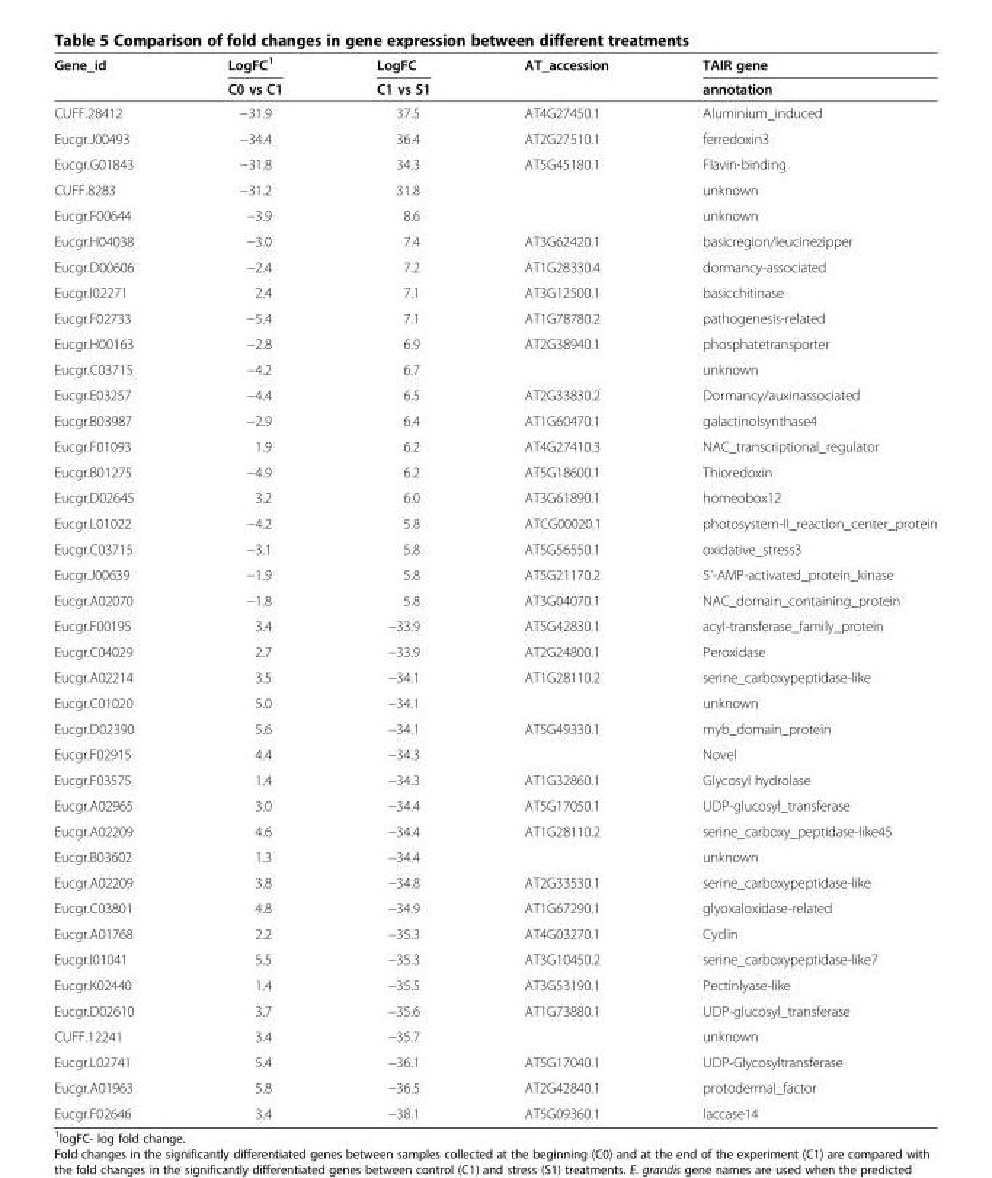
<table><thead><tr><td rowspan="2">Gene_id</td><td rowspan="2">LogFC<sup>1</sup> C0 vs C1</td><td rowspan="2">LogFC C1 vs S1</td><td rowspan="2">AT_accession</td><td rowspan="2">TAIR gene annotation</td></tr><tr></tr></thead><tbody><tr><td>CUFF.28412</td><td>−31.9</td><td>37.5</td><td>AT4G27450.1</td><td>Aluminium_induced</td></tr><tr><td>Eucgr.J00493</td><td>−34.4</td><td>36.4</td><td>AT2G27510.1</td><td>ferredoxin3</td></tr><tr><td>Eucgr.G01843</td><td>−31.8</td><td>34.3</td><td>AT5G45180.1</td><td>Flavin-binding</td></tr><tr><td>CUFF.8283</td><td>−31.2</td><td>31.8</td><td></td><td>unknown</td></tr><tr><td>Eucgr.F00644</td><td>−3.9</td><td>8.6</td><td></td><td>unknown</td></tr><tr><td>Eucgr.H04038</td><td>−3.0</td><td>7.4</td><td>AT3G62420.1</td><td>basicregion/leucinezipper</td></tr><tr><td>Eucgr.D00606</td><td>−2.4</td><td>7.2</td><td>AT1G28330.4</td><td>dormancy-associated</td></tr><tr><td>Eucgr.I02271</td><td>2.4</td><td>7.1</td><td>AT3G12500.1</td><td>basicchitinase</td></tr><tr><td>Eucgr.F02733</td><td>−5.4</td><td>7.1</td><td>AT1G78780.2</td><td>pathogenesis-related</td></tr><tr><td>Eucgr.H00163</td><td>−2.8</td><td>6.9</td><td>AT2G38940.1</td><td>phosphatetransporter</td></tr><tr><td>Eucgr.C03715</td><td>−4.2</td><td>6.7</td><td></td><td>unknown</td></tr><tr><td>Eucgr.E03257</td><td>−4.4</td><td>6.5</td><td>AT2G33830.2</td><td>Dormancy/auxinassociated</td></tr><tr><td>Eucgr.B03987</td><td>−2.9</td><td>6.4</td><td>AT1G60470.1</td><td>galactinolsynthase4</td></tr><tr><td>Eucgr.F01093</td><td>1.9</td><td>6.2</td><td>AT4G27410.3</td><td>NAC_transcriptional_regulator</td></tr><tr><td>Eucgr.B01275</td><td>−4.9</td><td>6.2</td><td>AT5G18600.1</td><td>Thioredoxin</td></tr><tr><td>Eucgr.D02645</td><td>3.2</td><td>6.0</td><td>AT3G61890.1</td><td>homeobox12</td></tr><tr><td>Eucgr.L01022</td><td>−4.2</td><td>5.8</td><td>ATCG00020.1</td><td>photosystem-II_reaction_center_protein</td></tr><tr><td>Eucgr.C03715</td><td>−3.1</td><td>5.8</td><td>AT5G56550.1</td><td>oxidative_stress3</td></tr><tr><td>Eucgr.J00639</td><td>−1.9</td><td>5.8</td><td>AT5G21170.2</td><td>5&#x27;-AMP-activated_protein_kinase</td></tr><tr><td>Eucgr.A02070</td><td>−1.8</td><td>5.8</td><td>AT3G04070.1</td><td>NAC_domain_containing_protein</td></tr><tr><td>Eucgr.F00195</td><td>3.4</td><td>−33.9</td><td>AT5G42830.1</td><td>acyl-transferase_family_protein</td></tr><tr><td>Eucgr.C04029</td><td>2.7</td><td>−33.9</td><td>AT2G24800.1</td><td>Peroxidase</td></tr><tr><td>Eucgr.A02214</td><td>3.5</td><td>−34.1</td><td>AT1G28110.2</td><td>serine_carboxypeptidase-like</td></tr><tr><td>Eucgr.C01020</td><td>5.0</td><td>−34.1</td><td></td><td>unknown</td></tr><tr><td>Eucgr.D02390</td><td>5.6</td><td>−34.1</td><td>AT5G49330.1</td><td>myb_domain_protein</td></tr><tr><td>Eucgr.F02915</td><td>4.4</td><td>−34.3</td><td></td><td>Novel</td></tr><tr><td>Eucgr.F03575</td><td>1.4</td><td>−34.3</td><td>AT1G32860.1</td><td>Glycosyl hydrolase</td></tr><tr><td>Eucgr.A02965</td><td>3.0</td><td>−34.4</td><td>AT5G17050.1</td><td>UDP-glucosyl_transferase</td></tr><tr><td>Eucgr.A02209</td><td>4.6</td><td>−34.4</td><td>AT1G28110.2</td><td>serine_carboxy_peptidase-like45</td></tr><tr><td>Eucgr.B03602</td><td>1.3</td><td>−34.4</td><td></td><td>unknown</td></tr><tr><td>Eucgr.A02209</td><td>3.8</td><td>−34.8</td><td>AT2G33530.1</td><td>serine_carboxypeptidase-like</td></tr><tr><td>Eucgr.C03801</td><td>4.8</td><td>−34.9</td><td>AT1G67290.1</td><td>glyoxaloxidase-related</td></tr><tr><td>Eucgr.A01768</td><td>2.2</td><td>−35.3</td><td>AT4G03270.1</td><td>Cyclin</td></tr><tr><td>Eucgr.I01041</td><td>5.5</td><td>−35.3</td><td>AT3G10450.2</td><td>serine_carboxypeptidase-like7</td></tr><tr><td>Eucgr.K02440</td><td>1.4</td><td>−35.5</td><td>AT3G53190.1</td><td>Pectinlyase-like</td></tr><tr><td>Eucgr.D02610</td><td>3.7</td><td>−35.6</td><td>AT1G73880.1</td><td>UDP-glucosyl_transferase</td></tr><tr><td>CUFF.12241</td><td>3.4</td><td>−35.7</td><td></td><td>unknown</td></tr><tr><td>Eucgr.L02741</td><td>5.4</td><td>−36.1</td><td>AT5G17040.1</td><td>UDP-Glycosyltransferase</td></tr><tr><td>Eucgr.A01963</td><td>5.8</td><td>−36.5</td><td>AT2G42840.1</td><td>protodermal_factor</td></tr><tr><td>Eucgr.F02646</td><td>3.4</td><td>−38.1</td><td>AT5G09360.1</td><td>laccase14</td></tr></tbody></table>